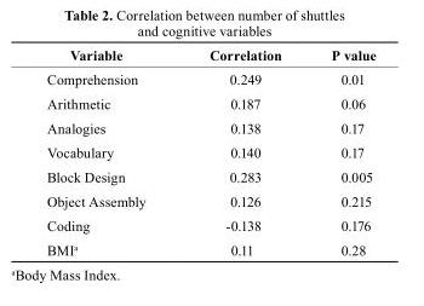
<table><thead><tr><td>Variable</td><td>correlation</td><td>P value</td></tr></thead><tbody><tr><td>Comprehension</td><td>0.249</td><td>0.01</td></tr><tr><td>Arithmetic</td><td>0.187</td><td>0.06</td></tr><tr><td>Analogies</td><td>0.138</td><td>0.17</td></tr><tr><td>Vocabulary</td><td>0.140</td><td>0.17</td></tr><tr><td>Block Design</td><td>0.283</td><td>0.005</td></tr><tr><td>Object Assembly</td><td>0.126</td><td>0.215</td></tr><tr><td>Coding</td><td>-0.138</td><td>0.176</td></tr><tr><td>BMI<sup>a</sup></td><td>0.11</td><td>0.28</td></tr></tbody></table>